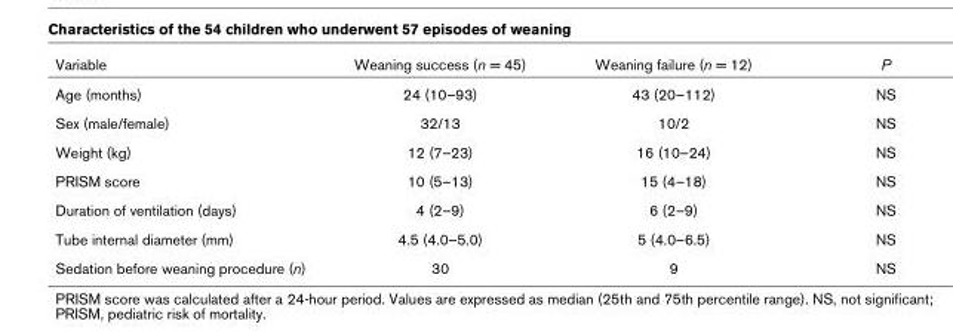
<table><thead><tr><td>Variable</td><td>Weaning success (n = 45)</td><td>Weaning failure (n = 12)</td><td>P</td></tr></thead><tbody><tr><td>Age (months)</td><td>24 (10–93)</td><td>43 (20–112)</td><td>NS</td></tr><tr><td>Sex (male/female)</td><td>32/13</td><td>10/2</td><td>NS</td></tr><tr><td>Weight (kg)</td><td>12 (7–23)</td><td>16 (10–24)</td><td>NS</td></tr><tr><td>PRISM score</td><td>10 (5–13)</td><td>15 (4–18)</td><td>NS</td></tr><tr><td>Duration of ventilation (days)</td><td>4 (2–9)</td><td>6 (2–9)</td><td>NS</td></tr><tr><td>Tube internal diameter (mm)</td><td>4.5 (4.0–5.0)</td><td>5 (4.0–6.5)</td><td>NS</td></tr><tr><td>Sedation before weaning procedure (n)</td><td>30</td><td>9</td><td>NS</td></tr></tbody></table>